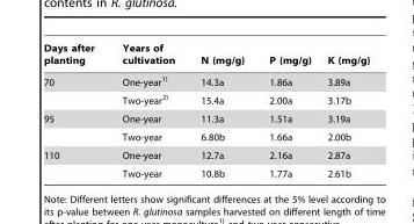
<table><thead><tr><td>Days after planting</td><td>Years of cultivation</td><td>N (mg/g)</td><td>P (mg/g)</td><td>K (mg/g)</td></tr></thead><tbody><tr><td rowspan="2">70</td><td>One-year<sup>1)</sup></td><td>14.3a</td><td>1.86a</td><td>3.89a</td></tr><tr><td>Two-year<sup>2)</sup></td><td>15.4a</td><td>2.00a</td><td>3.17b</td></tr><tr><td rowspan="2">95</td><td>One-year</td><td>11.3a</td><td>1.51a</td><td>3.19a</td></tr><tr><td>Two-year</td><td>6.80b</td><td>1.66a</td><td>2.00b</td></tr><tr><td rowspan="2">110</td><td>One-year</td><td>12.7a</td><td>2.16a</td><td>2.87a</td></tr><tr><td>Two-year</td><td>10.8b</td><td>1.77a</td><td>2.61b</td></tr></tbody></table>